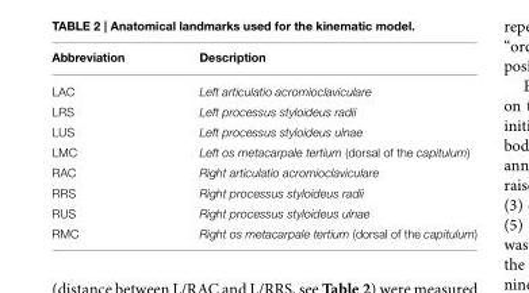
<table><thead><tr><td>Abbreviation</td><td>Description</td></tr></thead><tbody><tr><td>LAC</td><td>Left articulatio acromioclaviculare</td></tr><tr><td>LRS</td><td>Left processus styloideus radii</td></tr><tr><td>LUS</td><td>Left processus styloideus ulnae</td></tr><tr><td>LMC</td><td>Left os metacarpale tertium (dorsal of the capitulum)</td></tr><tr><td>RAC</td><td>Right articulatio acromioclaviculare</td></tr><tr><td>RRS</td><td>Right processus styloideus radii</td></tr><tr><td>RUS</td><td>Right processus styloideus ulnae</td></tr><tr><td>RMC</td><td>Right os metacarpale tertium (dorsal of the capitulum)</td></tr></tbody></table>